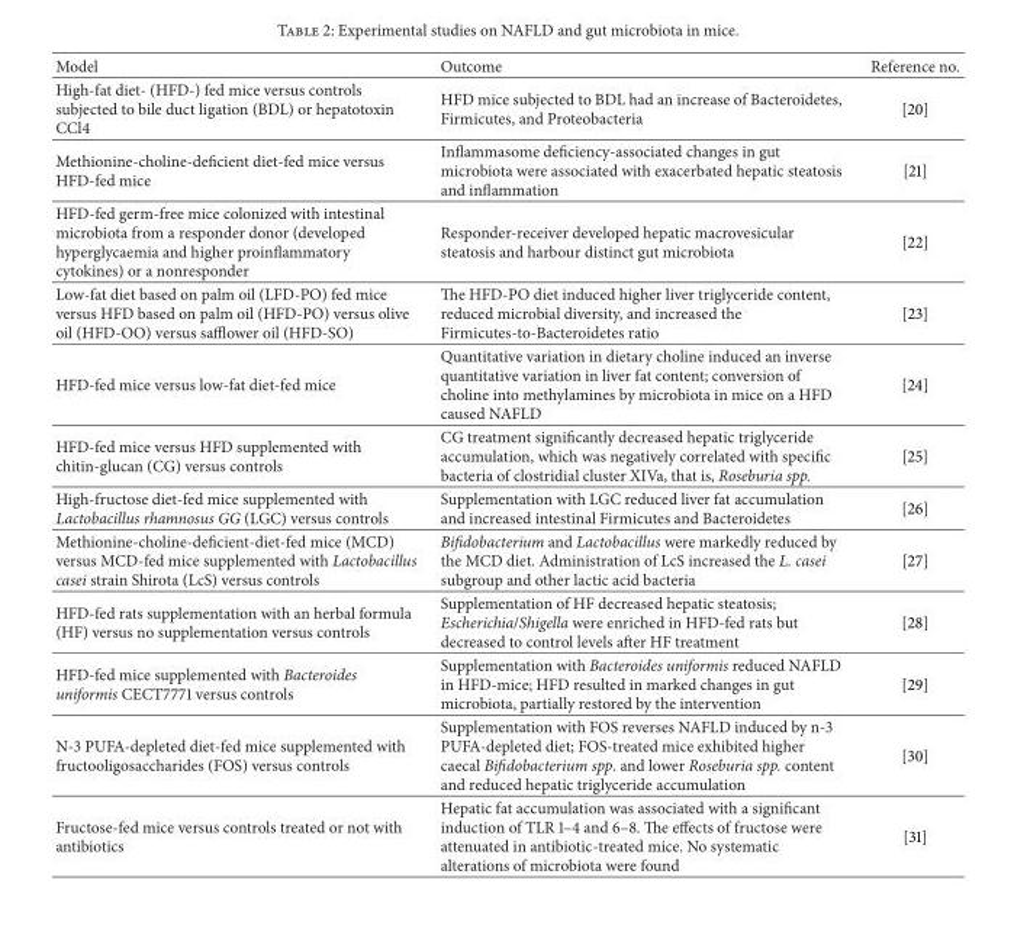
<table><thead><tr><td>Model</td><td>Outcome</td><td>Reference no.</td></tr></thead><tbody><tr><td>High-fat diet- (HFD-) fed mice versus controls subjected to bile duct ligation (BDL) or hepatotoxin CCl4</td><td>HFD mice subjected to BDL had an increase of Bacteroidetes, Firmicutes, and Proteobacteria</td><td>[20]</td></tr><tr><td>Methionine-choline-deficient diet-fed mice versus HFD-fed mice</td><td>Inflammasome deficiency-associated changes in gut microbiota were associated with exacerbated hepatic steatosis and inflammation</td><td>[21]</td></tr><tr><td>HFD-fed germ-free mice colonized with intestinal microbiota from a responder donor (developed hyperglycaemia and higher proinflammatory cytokines) or a nonresponder</td><td>Responder-receiver developed hepatic macrovesicular steatosis and harbour distinct gut microbiota</td><td>[22]</td></tr><tr><td>Low-fat diet based on palm oil (LFD-PO) fed mice versus HFD based on palm oil (HFD-PO) versus olive oil (HFD-OO) versus safflower oil (HFD-SO)</td><td>The HFD-PO diet induced higher liver triglyceride content, reduced microbial diversity, and increased the Firmicutes-to-Bacteroidetes ratio</td><td>[23]</td></tr><tr><td>HFD-fed mice versus low-fat diet-fed mice</td><td>Quantitative variation in dietary choline induced an inverse quantitative variation in liver fat content; conversion of choline into methylamines by microbiota in mice on a HFD caused NAFLD</td><td>[24]</td></tr><tr><td>HFD-fed mice versus HFD supplemented with chitin-glucan (CG) versus controls</td><td>CG treatment significantly decreased hepatic triglyceride accumulation, which was negatively correlated with specific bacteria of clostridial cluster XIVa, that is, Roseburia spp.</td><td>[25]</td></tr><tr><td>High-fructose diet-fed mice supplemented with Lactobacillus rhamnosus GG (LGC) versus controls</td><td>Supplementation with LGC reduced liver fat accumulation and increased intestinal Firmicutes and Bacteroidetes</td><td>[26]</td></tr><tr><td>Methionine-choline-deficient-diet-fed mice (MCD) versus MCD-fed mice supplemented with Lactobacillus casei strain Shirota (LcS) versus controls</td><td>Bifidobacterium and Lactobacillus were markedly reduced by the MCD diet. Administration of LcS increased the L. casei subgroup and other lactic acid bacteria</td><td>[27]</td></tr><tr><td>HFD-fed rats supplementation with an herbal formula (HF) versus no supplementation versus controls</td><td>Supplementation of HF decreased hepatic steatosis; Escherichia/Shigella were enriched in HFD-fed rats but decreased to control levels after HF treatment</td><td>[28]</td></tr><tr><td>HFD-fed mice supplemented with Bacteroides uniformis CECT7771 versus controls</td><td>Supplementation with Bacteroides uniformis reduced NAFLD in HFD-mice; HFD resulted in marked changes in gut microbiota, partially restored by the intervention</td><td>[29]</td></tr><tr><td>N-3 PUFA-depleted diet-fed mice supplemented with fructooligosaccharides (FOS) versus controls</td><td>Supplementation with FOS reverses NAFLD induced by n-3 PUFA-depleted diet; FOS-treated mice exhibited higher caecal Bifidobacterium spp. and lower Roseburia spp. content and reduced hepatic triglyceride accumulation</td><td>[30]</td></tr><tr><td>Fructose-fed mice versus controls treated or not with antibiotics</td><td>Hepatic fat accumulation was associated with a significant induction of TLR 1–4 and 6–8. The effects of fructose were attenuated in antibiotic-treated mice. No systematic alterations of microbiota were found</td><td>[31]</td></tr></tbody></table>